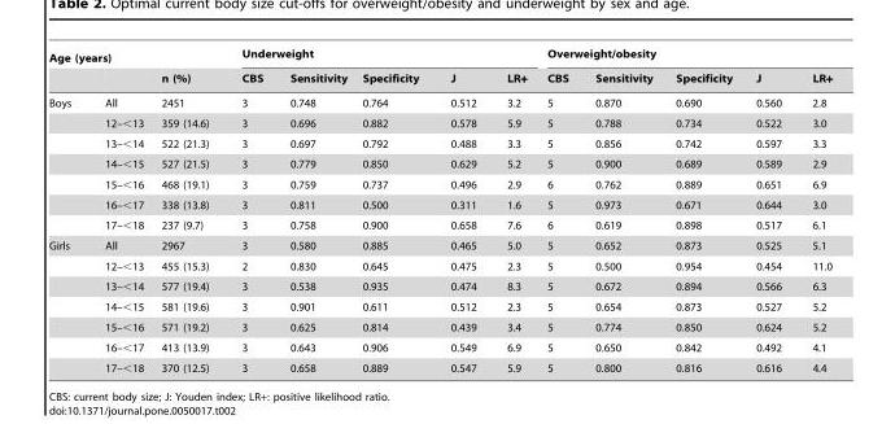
<table><thead><tr><td colspan="2">Age (years)</td><td rowspan="2">n (%)</td><td colspan="5">Underweight</td><td colspan="5">Overweight/obesity</td></tr><tr><td></td><td></td><td>CBS</td><td>Sensitivity</td><td>Specificity</td><td>J</td><td>LR+</td><td>CBS</td><td>Sensitivity</td><td>Specificity</td><td>J</td><td>LR+</td></tr></thead><tbody><tr><td rowspan="7">Boys</td><td>All</td><td>2451</td><td>3</td><td>0.748</td><td>0.764</td><td>0.512</td><td>3.2</td><td>5</td><td>0.870</td><td>0.690</td><td>0.560</td><td>2.8</td></tr><tr><td>12–&lt;13</td><td>359 (14.6)</td><td>3</td><td>0.696</td><td>0.882</td><td>0.578</td><td>5.9</td><td>5</td><td>0.788</td><td>0.734</td><td>0.522</td><td>3.0</td></tr><tr><td>13–&lt;14</td><td>522 (21.3)</td><td>3</td><td>0.697</td><td>0.792</td><td>0.488</td><td>3.3</td><td>5</td><td>0.856</td><td>0.742</td><td>0.597</td><td>3.3</td></tr><tr><td>14–&lt;15</td><td>527 (21.5)</td><td>3</td><td>0.779</td><td>0.850</td><td>0.629</td><td>5.2</td><td>5</td><td>0.900</td><td>0.689</td><td>0.589</td><td>2.9</td></tr><tr><td>15–&lt;16</td><td>468 (19.1)</td><td>3</td><td>0.759</td><td>0.737</td><td>0.496</td><td>2.9</td><td>6</td><td>0.762</td><td>0.889</td><td>0.651</td><td>6.9</td></tr><tr><td>16–&lt;17</td><td>338 (13.8)</td><td>3</td><td>0.811</td><td>0.500</td><td>0.311</td><td>1.6</td><td>5</td><td>0.973</td><td>0.671</td><td>0.644</td><td>3.0</td></tr><tr><td>17–&lt;18</td><td>237 (9.7)</td><td>3</td><td>0.758</td><td>0.900</td><td>0.658</td><td>7.6</td><td>6</td><td>0.619</td><td>0.898</td><td>0.517</td><td>6.1</td></tr><tr><td rowspan="7">Girls</td><td>All</td><td>2967</td><td>3</td><td>0.580</td><td>0.885</td><td>0.465</td><td>5.0</td><td>5</td><td>0.652</td><td>0.873</td><td>0.525</td><td>5.1</td></tr><tr><td>12–&lt;13</td><td>455 (15.3)</td><td>2</td><td>0.830</td><td>0.645</td><td>0.475</td><td>2.3</td><td>5</td><td>0.500</td><td>0.954</td><td>0.454</td><td>11.0</td></tr><tr><td>13–&lt;14</td><td>577 (19.4)</td><td>3</td><td>0.538</td><td>0.935</td><td>0.474</td><td>8.3</td><td>5</td><td>0.672</td><td>0.894</td><td>0.566</td><td>6.3</td></tr><tr><td>14–&lt;15</td><td>581 (19.6)</td><td>3</td><td>0.901</td><td>0.611</td><td>0.512</td><td>2.3</td><td>5</td><td>0.654</td><td>0.873</td><td>0.527</td><td>5.2</td></tr><tr><td>15–&lt;16</td><td>571 (19.2)</td><td>3</td><td>0.625</td><td>0.814</td><td>0.439</td><td>3.4</td><td>5</td><td>0.774</td><td>0.850</td><td>0.624</td><td>5.2</td></tr><tr><td>16–&lt;17</td><td>413 (13.9)</td><td>3</td><td>0.643</td><td>0.906</td><td>0.549</td><td>6.9</td><td>5</td><td>0.650</td><td>0.842</td><td>0.492</td><td>4.1</td></tr><tr><td>17–&lt;18</td><td>370 (12.5)</td><td>3</td><td>0.658</td><td>0.889</td><td>0.547</td><td>5.9</td><td>5</td><td>0.800</td><td>0.816</td><td>0.616</td><td>4.4</td></tr></tbody></table>